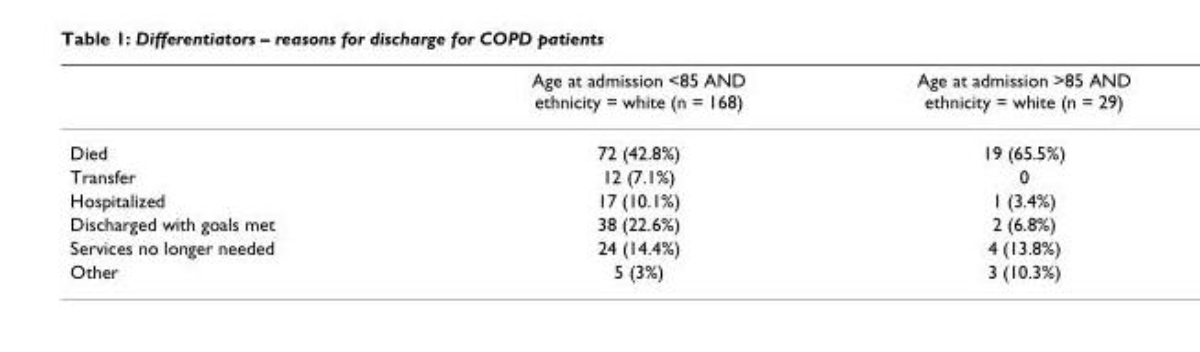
<table><thead><tr><td></td><td>Age at admission &lt;85 AND ethnicity = white (n = 168)</td><td>Age at admission &gt;85 AND ethnicity = white (n = 29)</td></tr></thead><tbody><tr><td>Died</td><td>72 (42.8%)</td><td>19 (65.5%)</td></tr><tr><td>Transfer</td><td>12 (7.1%)</td><td>0</td></tr><tr><td>Hospitalized</td><td>17 (10.1%)</td><td>1 (3.4%)</td></tr><tr><td>Discharged with goals met</td><td>38 (22.6%)</td><td>2 (6.8%)</td></tr><tr><td>Services no longer needed</td><td>24 (14.4%)</td><td>4 (13.8%)</td></tr><tr><td>Other</td><td>5 (3%)</td><td>3 (10.3%)</td></tr></tbody></table>